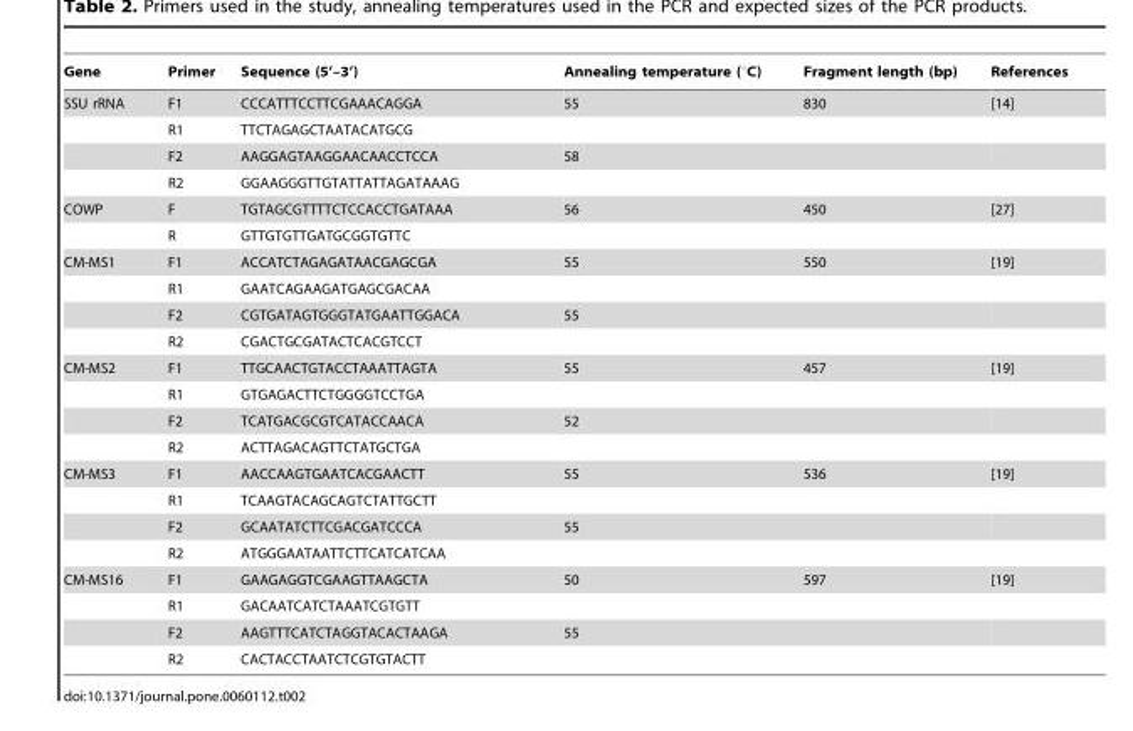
<table><thead><tr><td>Gene</td><td>Primer</td><td>Sequence (5’–3’)</td><td>Annealing temperature (°C)</td><td>Fragment length (bp)</td><td>References</td></tr></thead><tbody><tr><td rowspan="4">SSU rRNA</td><td>F1</td><td>CCCATTTCCTTCGAAACAGGA</td><td>55</td><td>830</td><td>[14]</td></tr><tr><td>R1</td><td>TTCTAGAGCTAATACATGCG</td><td></td><td></td><td></td></tr><tr><td>F2</td><td>AAGGAGTAAGGAACAACCTCCA</td><td>58</td><td></td><td></td></tr><tr><td>R2</td><td>GGAAGGGTTGTATTATTAGATAAAG</td><td></td><td></td><td></td></tr><tr><td rowspan="2">COWP</td><td>F</td><td>TGTAGCGTTTTCTCCACCTGATAAA</td><td>56</td><td>450</td><td>[27]</td></tr><tr><td>R</td><td>GTTGTGTTGATGCGGTGTTC</td><td></td><td></td><td></td></tr><tr><td rowspan="4">CM-MS1</td><td>F1</td><td>ACCATCTAGAGATAACGAGCGA</td><td>55</td><td>550</td><td>[19]</td></tr><tr><td>R1</td><td>GAATCAGAAGATGAGCGACAA</td><td></td><td></td><td></td></tr><tr><td>F2</td><td>CGTGATAGTGGGTATGAATTGGACA</td><td>55</td><td></td><td></td></tr><tr><td>R2</td><td>CGACTGCGATACTCACGTCCT</td><td></td><td></td><td></td></tr><tr><td rowspan="4">CM-MS2</td><td>F1</td><td>TTGCAACTGTACCTAAATTAGTA</td><td>55</td><td>457</td><td>[19]</td></tr><tr><td>R1</td><td>GTGAGACTTCTGGGGTCCTGA</td><td></td><td></td><td></td></tr><tr><td>F2</td><td>TCATGACGCGTCATACCAACA</td><td>52</td><td></td><td></td></tr><tr><td>R2</td><td>ACTTAGACAGTTCTATGCTGA</td><td></td><td></td><td></td></tr><tr><td rowspan="4">CM-MS3</td><td>F1</td><td>AACCAAGTGAATCACGAACTT</td><td>55</td><td>536</td><td>[19]</td></tr><tr><td>R1</td><td>TCAAGTACAGCAGTCTATTGCTT</td><td></td><td></td><td></td></tr><tr><td>F2</td><td>GCAATATCTTCGACGATCCCA</td><td>55</td><td></td><td></td></tr><tr><td>R2</td><td>ATGGGAATAATTCTTCATCATCAA</td><td></td><td></td><td></td></tr><tr><td rowspan="4">CM-MS16</td><td>F1</td><td>GAAGAGGTCGAAGTTAAGCTA</td><td>50</td><td>597</td><td>[19]</td></tr><tr><td>R1</td><td>GACAATCATCTAAATCGTGTT</td><td></td><td></td><td></td></tr><tr><td>F2</td><td>AAGTTTCATCTAGGTACACTAAGA</td><td>55</td><td></td><td></td></tr><tr><td>R2</td><td>CACTACCTAATCTCGTGTACTT</td><td></td><td></td><td></td></tr></tbody></table>